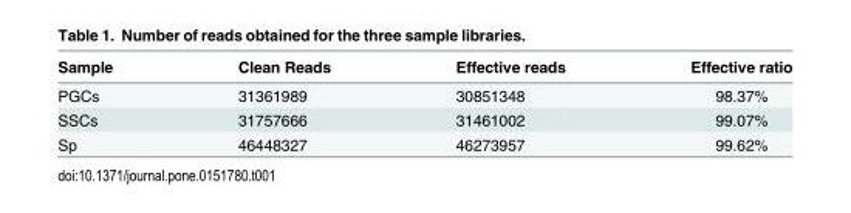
<table><thead><tr><td>Sample</td><td>Clean Reads</td><td>Effective reads</td><td>Effective ratio</td></tr></thead><tbody><tr><td>PGCs</td><td>31361989</td><td>30851348</td><td>98.37%</td></tr><tr><td>SSCs</td><td>31757666</td><td>31461002</td><td>99.07%</td></tr><tr><td>Sp</td><td>46448327</td><td>46273957</td><td>99.62%</td></tr></tbody></table>